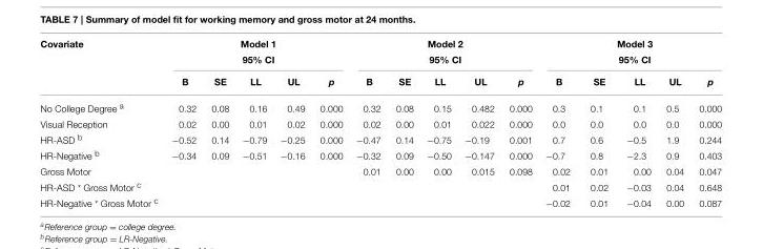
<table><thead><tr><td rowspan="2">Covariate</td><td colspan="5">Model 1 95% CI</td><td colspan="5">Model 2 95% CI</td><td colspan="5">Model 3 95% CI</td></tr><tr><td>B</td><td>SE</td><td>LL</td><td>UL</td><td>p</td><td>B</td><td>SE</td><td>LL</td><td>UL</td><td>p</td><td>B</td><td>SE</td><td>LL</td><td>UL</td><td>p</td></tr></thead><tbody><tr><td>No College Degree <sup>a</sup></td><td>0.32</td><td>0.08</td><td>0.16</td><td>0.49</td><td>0.000</td><td>0.32</td><td>0.08</td><td>0.15</td><td>0.482</td><td>0.000</td><td>0.3</td><td>0.1</td><td>0.1</td><td>0.5</td><td>0.000</td></tr><tr><td>Visual Reception</td><td>0.02</td><td>0.00</td><td>0.01</td><td>0.02</td><td>0.000</td><td>0.02</td><td>0.00</td><td>0.01</td><td>0.022</td><td>0.000</td><td>0.0</td><td>0.0</td><td>0.0</td><td>0.0</td><td>0.000</td></tr><tr><td>HR-ASD <sup>b</sup></td><td>−0.52</td><td>0.14</td><td>−0.79</td><td>−0.25</td><td>0.000</td><td>−0.47</td><td>0.14</td><td>−0.75</td><td>−0.19</td><td>0.001</td><td>0.7</td><td>0.6</td><td>−0.5</td><td>1.9</td><td>0.244</td></tr><tr><td>HR-Negative <sup>b</sup></td><td>−0.34</td><td>0.09</td><td>−0.51</td><td>−0.16</td><td>0.000</td><td>−0.32</td><td>0.09</td><td>−0.50</td><td>−0.147</td><td>0.000</td><td>−0.7</td><td>0.8</td><td>−2.3</td><td>0.9</td><td>0.403</td></tr><tr><td>Gross Motor</td><td></td><td></td><td></td><td></td><td></td><td>0.01</td><td>0.00</td><td>0.00</td><td>0.015</td><td>0.098</td><td>0.02</td><td>0.01</td><td>0.00</td><td>0.04</td><td>0.047</td></tr><tr><td>HR-ASD * Gross Motor <sup>c</sup></td><td></td><td></td><td></td><td></td><td></td><td></td><td></td><td></td><td></td><td></td><td>0.01</td><td>0.02</td><td>−0.03</td><td>0.04</td><td>0.648</td></tr><tr><td>HR-Negative * Gross Motor <sup>c</sup></td><td></td><td></td><td></td><td></td><td></td><td></td><td></td><td></td><td></td><td></td><td>−0.02</td><td>0.01</td><td>−0.04</td><td>0.00</td><td>0.087</td></tr></tbody></table>